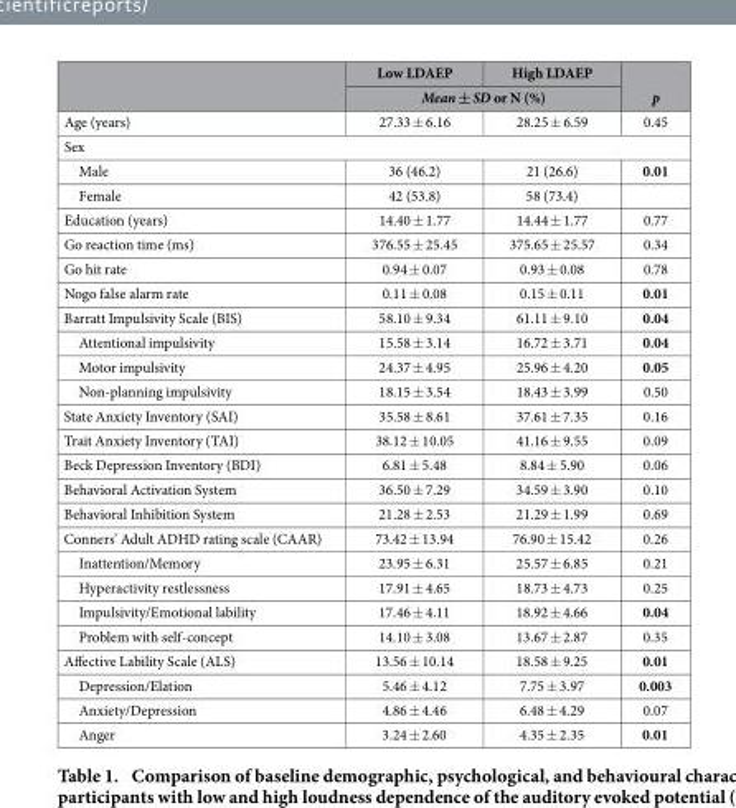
<table><thead><tr><td rowspan="2"></td><td>Low LDAEP</td><td>High LDAEP</td><td rowspan="2">p</td></tr><tr><td colspan="2">Mean ± SD or N (%)</td></tr></thead><tbody><tr><td>Age (years)</td><td>27.33 ± 6.16</td><td>28.25 ± 6.59</td><td>0.45</td></tr><tr><td colspan="4">Sex</td></tr><tr><td>Male</td><td>36 (46.2)</td><td>21 (26.6)</td><td>0.01</td></tr><tr><td>Female</td><td>42 (53.8)</td><td>58 (73.4)</td><td></td></tr><tr><td>Education (years)</td><td>14.40 ± 1.77</td><td>14.44 ± 1.77</td><td>0.77</td></tr><tr><td>Go reaction time (ms)</td><td>376.55 ± 25.45</td><td>375.65 ± 25.57</td><td>0.34</td></tr><tr><td>Go hit rate</td><td>0.94 ± 0.07</td><td>0.93 ± 0.08</td><td>0.78</td></tr><tr><td>Nogo false alarm rate</td><td>0.11 ± 0.08</td><td>0.15 ± 0.11</td><td>0.01</td></tr><tr><td>Barratt Impulsivity Scale (BIS)</td><td>58.10 ± 9.34</td><td>61.11 ± 9.10</td><td>0.04</td></tr><tr><td>Attentional impulsivity</td><td>15.58 ± 3.14</td><td>16.72 ± 3.71</td><td>0.04</td></tr><tr><td>Motor impulsivity</td><td>24.37 ± 4.95</td><td>25.96 ± 4.20</td><td>0.05</td></tr><tr><td>Non-planning impulsivity</td><td>18.15 ± 3.54</td><td>18.43 ± 3.99</td><td>0.50</td></tr><tr><td>State Anxiety Inventory (SAI)</td><td>35.58 ± 8.61</td><td>37.61 ± 7.35</td><td>0.16</td></tr><tr><td>Trait Anxiety Inventory (TAI)</td><td>38.12 ± 10.05</td><td>41.16 ± 9.55</td><td>0.09</td></tr><tr><td>Beck Depression Inventory (BDI)</td><td>6.81 ± 5.48</td><td>8.84 ± 5.90</td><td>0.06</td></tr><tr><td>Behavioral Activation System</td><td>36.50 ± 7.29</td><td>34.59 ± 3.90</td><td>0.10</td></tr><tr><td>Behavioral Inhibition System</td><td>21.28 ± 2.53</td><td>21.29 ± 1.99</td><td>0.69</td></tr><tr><td>Conners’ Adult ADHD rating scale (CAAR)</td><td>73.42 ± 13.94</td><td>76.90 ± 15.42</td><td>0.26</td></tr><tr><td>Inattention/Memory</td><td>23.95 ± 6.31</td><td>25.57 ± 6.85</td><td>0.21</td></tr><tr><td>Hyperactivity restlessness</td><td>17.91 ± 4.65</td><td>18.73 ± 4.73</td><td>0.25</td></tr><tr><td>Impulsivity/Emotional lability</td><td>17.46 ± 4.11</td><td>18.92 ± 4.66</td><td>0.04</td></tr><tr><td>Problem with self-concept</td><td>14.10 ± 3.08</td><td>13.67 ± 2.87</td><td>0.35</td></tr><tr><td>Affective Lability Scale (ALS)</td><td>13.56 ± 10.14</td><td>18.58 ± 9.25</td><td>0.01</td></tr><tr><td>Depression/Elation</td><td>5.46 ± 4.12</td><td>7.75 ± 3.97</td><td>0.003</td></tr><tr><td>Anxiety/Depression</td><td>4.86 ± 4.46</td><td>6.48 ± 4.29</td><td>0.07</td></tr><tr><td>Anger</td><td>3.24 ± 2.60</td><td>4.35 ± 2.35</td><td>0.01</td></tr></tbody></table>